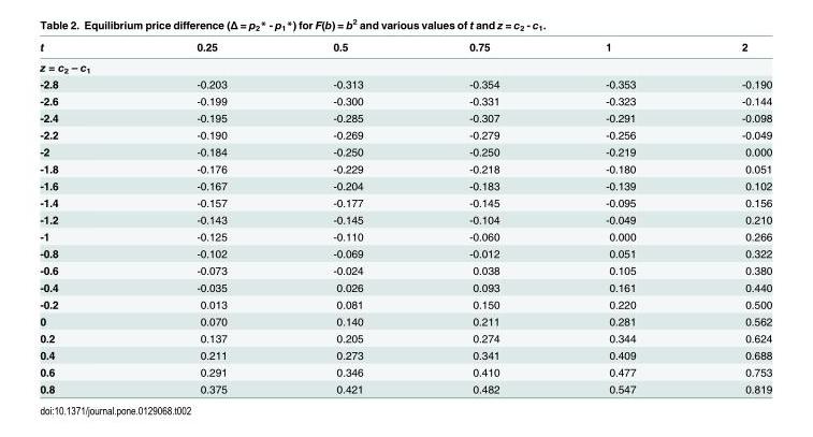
<table><thead><tr><td>t</td><td>0.25</td><td>0.5</td><td>0.75</td><td>1</td><td>2</td></tr></thead><tbody><tr><td colspan="6">z = c<sub>2</sub> – c<sub>1</sub></td></tr><tr><td>-2.8</td><td>-0.203</td><td>-0.313</td><td>-0.354</td><td>-0.353</td><td>-0.190</td></tr><tr><td>-2.6</td><td>-0.199</td><td>-0.300</td><td>-0.331</td><td>-0.323</td><td>-0.144</td></tr><tr><td>-2.4</td><td>-0.195</td><td>-0.285</td><td>-0.307</td><td>-0.291</td><td>-0.098</td></tr><tr><td>-2.2</td><td>-0.190</td><td>-0.269</td><td>-0.279</td><td>-0.256</td><td>-0.049</td></tr><tr><td>-2</td><td>-0.184</td><td>-0.250</td><td>-0.250</td><td>-0.219</td><td>0.000</td></tr><tr><td>-1.8</td><td>-0.176</td><td>-0.229</td><td>-0.218</td><td>-0.180</td><td>0.051</td></tr><tr><td>-1.6</td><td>-0.167</td><td>-0.204</td><td>-0.183</td><td>-0.139</td><td>0.102</td></tr><tr><td>-1.4</td><td>-0.157</td><td>-0.177</td><td>-0.145</td><td>-0.095</td><td>0.156</td></tr><tr><td>-1.2</td><td>-0.143</td><td>-0.145</td><td>-0.104</td><td>-0.049</td><td>0.210</td></tr><tr><td>-1</td><td>-0.125</td><td>-0.110</td><td>-0.060</td><td>0.000</td><td>0.266</td></tr><tr><td>-0.8</td><td>-0.102</td><td>-0.069</td><td>-0.012</td><td>0.051</td><td>0.322</td></tr><tr><td>-0.6</td><td>-0.073</td><td>-0.024</td><td>0.038</td><td>0.105</td><td>0.380</td></tr><tr><td>-0.4</td><td>-0.035</td><td>0.026</td><td>0.093</td><td>0.161</td><td>0.440</td></tr><tr><td>-0.2</td><td>0.013</td><td>0.081</td><td>0.150</td><td>0.220</td><td>0.500</td></tr><tr><td>0</td><td>0.070</td><td>0.140</td><td>0.211</td><td>0.281</td><td>0.562</td></tr><tr><td>0.2</td><td>0.137</td><td>0.205</td><td>0.274</td><td>0.344</td><td>0.624</td></tr><tr><td>0.4</td><td>0.211</td><td>0.273</td><td>0.341</td><td>0.409</td><td>0.688</td></tr><tr><td>0.6</td><td>0.291</td><td>0.346</td><td>0.410</td><td>0.477</td><td>0.753</td></tr><tr><td>0.8</td><td>0.375</td><td>0.421</td><td>0.482</td><td>0.547</td><td>0.819</td></tr></tbody></table>